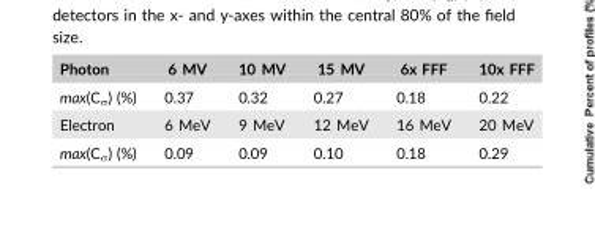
<table><thead><tr><td>Photon</td><td>6 MV</td><td>10 MV</td><td>15 MV</td><td>6x FFF</td><td>10x FFF</td></tr></thead><tbody><tr><td>max(C<sub>σ</sub>) (%)</td><td>0.37</td><td>0.32</td><td>0.27</td><td>0.18</td><td>0.22</td></tr><tr><td>Electron</td><td>6 MeV</td><td>9 MeV</td><td>12 MeV</td><td>16 MeV</td><td>20 MeV</td></tr><tr><td>max(C<sub>σ</sub>) (%)</td><td>0.09</td><td>0.09</td><td>0.10</td><td>0.18</td><td>0.29</td></tr></tbody></table>